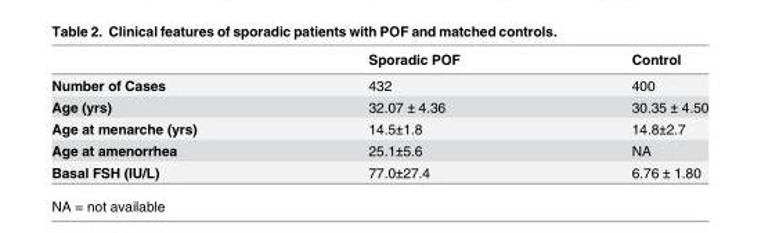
<table><thead><tr><td></td><td>Sporadic POF</td><td>Control</td></tr></thead><tbody><tr><td>Number of Cases</td><td>432</td><td>400</td></tr><tr><td>Age (yrs)</td><td>32.07 ± 4.36</td><td>30.35 ± 4.50</td></tr><tr><td>Age at menarche (yrs)</td><td>14.5±1.8</td><td>14.8±2.7</td></tr><tr><td>Age at amenorrhea</td><td>25.1±5.6</td><td>NA</td></tr><tr><td>Basal FSH (IU/L)</td><td>77.0±27.4</td><td>6.76 ± 1.80</td></tr></tbody></table>